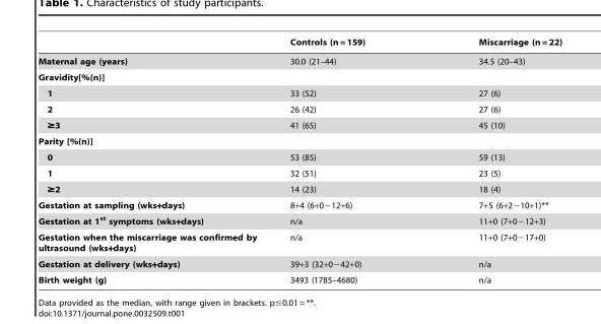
<table><thead><tr><td></td><td>Controls (n = 159)</td><td>Miscarriage (n = 22)</td></tr></thead><tbody><tr><td>Maternal age (years)</td><td>30.0 (21–44)</td><td>34.5 (20–43)</td></tr><tr><td colspan="3">Gravidity[%(n)]</td></tr><tr><td>1</td><td>33 (52)</td><td>27 (6)</td></tr><tr><td>2</td><td>26 (42)</td><td>27 (6)</td></tr><tr><td>≥3</td><td>41 (65)</td><td>45 (10)</td></tr><tr><td colspan="3">Parity [%(n)]</td></tr><tr><td>0</td><td>53 (85)</td><td>59 (13)</td></tr><tr><td>1</td><td>32 (51)</td><td>23 (5)</td></tr><tr><td>≥2</td><td>14 (23)</td><td>18 (4)</td></tr><tr><td>Gestation at sampling (wks+days)</td><td>8+4 (6+0−12+6)</td><td>7+5 (6+2−10+1)**</td></tr><tr><td>Gestation at 1<sup>st</sup> symptoms (wks+days)</td><td>n/a</td><td>11+0 (7+0−12+3)</td></tr><tr><td>Gestation when the miscarriage was confirmed by ultrasound (wks+days)</td><td>n/a</td><td>11+0 (7+0−17+0)</td></tr><tr><td>Gestation at delivery (wks+days)</td><td>39+3 (32+0−42+0)</td><td>n/a</td></tr><tr><td>Birth weight (g)</td><td>3493 (1785–4680)</td><td>n/a</td></tr></tbody></table>